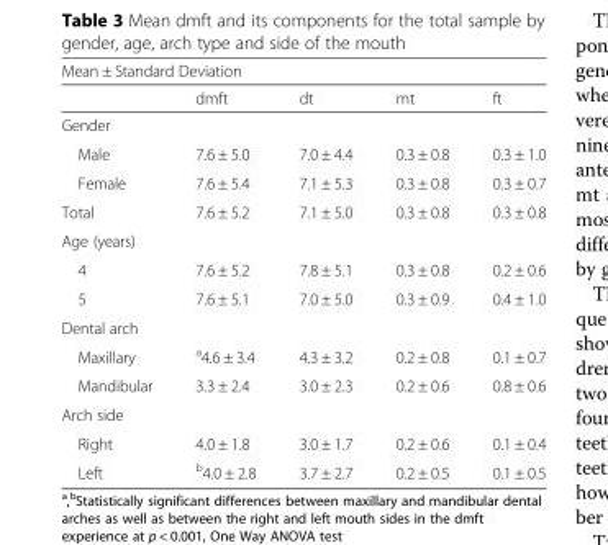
<table><thead><tr><td colspan="5">Mean ± Standard Deviation</td></tr><tr><td></td><td>dmft</td><td>dt</td><td>mt</td><td>ft</td></tr></thead><tbody><tr><td colspan="5">Gender</td></tr><tr><td>Male</td><td>7.6 ± 5.0</td><td>7.0 ± 4.4</td><td>0.3 ± 0.8</td><td>0.3 ± 1.0</td></tr><tr><td>Female</td><td>7.6 ± 5.4</td><td>7.1 ± 5.3</td><td>0.3 ± 0.8</td><td>0.3 ± 0.7</td></tr><tr><td>Total</td><td>7.6 ± 5.2</td><td>7.1 ± 5.0</td><td>0.3 ± 0.8</td><td>0.3 ± 0.8</td></tr><tr><td colspan="5">Age (years)</td></tr><tr><td>4</td><td>7.6 ± 5.2</td><td>7.8 ± 5.1</td><td>0.3 ± 0.8</td><td>0.2 ± 0.6</td></tr><tr><td>5</td><td>7.6 ± 5.1</td><td>7.0 ± 5.0</td><td>0.3 ± 0.9</td><td>0.4 ± 1.0</td></tr><tr><td colspan="5">Dental arch</td></tr><tr><td>Maxillary</td><td><sup>a</sup>4.6 ± 3.4</td><td>4.3 ± 3.2</td><td>0.2 ± 0.8</td><td>0.1 ± 0.7</td></tr><tr><td>Mandibular</td><td>3.3 ± 2.4</td><td>3.0 ± 2.3</td><td>0.2 ± 0.6</td><td>0.8 ± 0.6</td></tr><tr><td colspan="5">Arch side</td></tr><tr><td>Right</td><td>4.0 ± 1.8</td><td>3.0 ± 1.7</td><td>0.2 ± 0.6</td><td>0.1 ± 0.4</td></tr><tr><td>Left</td><td><sup>b</sup>4.0 ± 2.8</td><td>3.7 ± 2.7</td><td>0.2 ± 0.5</td><td>0.1 ± 0.5</td></tr></tbody></table>